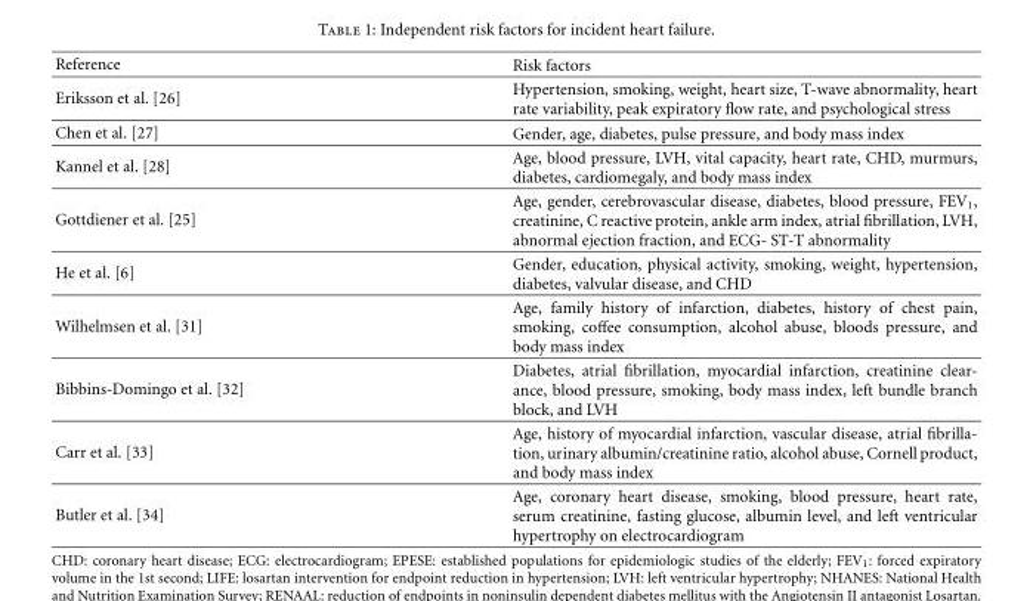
<table><thead><tr><td>Reference</td><td>Risk factors</td></tr></thead><tbody><tr><td>Eriksson et al. [26]</td><td>Hypertension, smoking, weight, heart size, T-wave abnormality, heart rate variability, peak expiratory flow rate, and psychological stress</td></tr><tr><td>Chen et al. [27]</td><td>Gender, age, diabetes, pulse pressure, and body mass index</td></tr><tr><td>Kannel et al. [28]</td><td>Age, blood pressure, LVH, vital capacity, heart rate, CHD, murmurs, diabetes, cardiomegaly, and body mass index</td></tr><tr><td>Gottdiener et al. [25]</td><td>Age, gender, cerebrovascular disease, diabetes, blood pressure, FEV<sub>1</sub>, creatinine, C reactive protein, ankle arm index, atrial fibrillation, LVH, abnormal ejection fraction, and ECG- ST-T abnormality</td></tr><tr><td>He et al. [6]</td><td>Gender, education, physical activity, smoking, weight, hypertension, diabetes, valvular disease, and CHD</td></tr><tr><td>Wilhelmsen et al. [31]</td><td>Age, family history of infarction, diabetes, history of chest pain, smoking, coffee consumption, alcohol abuse, bloods pressure, and body mass index</td></tr><tr><td>Bibbins-Domingo et al. [32]</td><td>Diabetes, atrial fibrillation, myocardial infarction, creatinine clear- ance, blood pressure, smoking, body mass index, left bundle branch block, and LVH</td></tr><tr><td>Carr et al. [33]</td><td>Age, history of myocardial infarction, vascular disease, atrial fibrilla- tion, urinary albumin/creatinine ratio, alcohol abuse, Cornell product, and body mass index</td></tr><tr><td>Butler et al. [34]</td><td>Age, coronary heart disease, smoking, blood pressure, heart rate, serum creatinine, fasting glucose, albumin level, and left ventricular hypertrophy on electrocardiogram</td></tr></tbody></table>